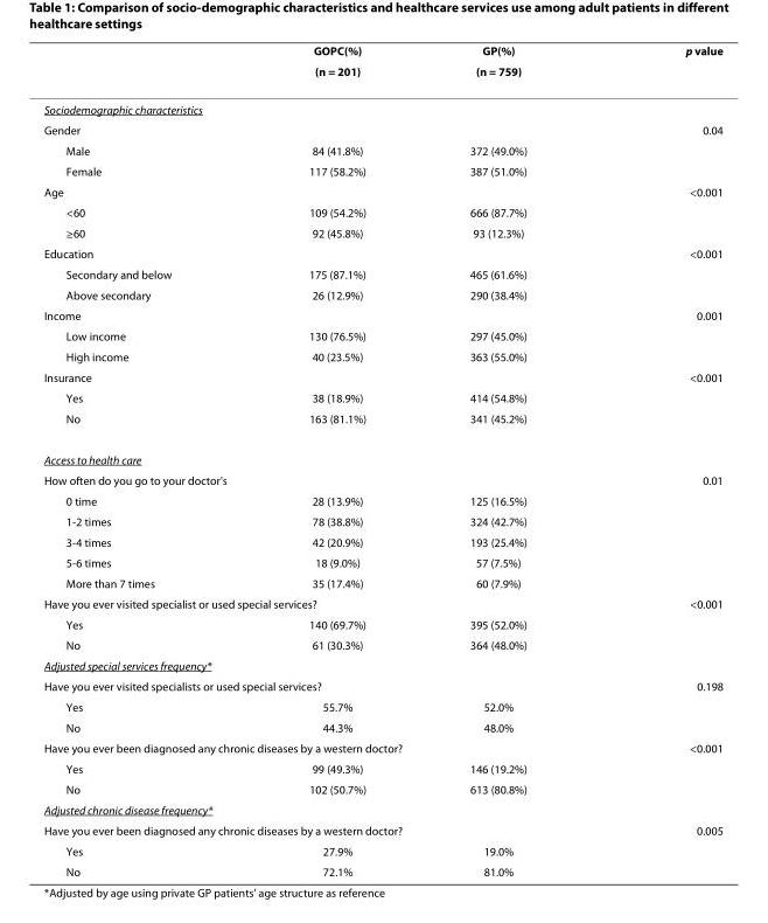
<table><thead><tr><td rowspan="2"></td><td rowspan="2">GOPC(%) (n = 201)</td><td rowspan="2">GP(%) (n = 759)</td><td rowspan="2">p value</td></tr><tr></tr></thead><tbody><tr><td colspan="4">Sociodemographic characteristics</td></tr><tr><td>Gender</td><td></td><td></td><td>0.04</td></tr><tr><td>Male</td><td>84 (41.8%)</td><td>372 (49.0%)</td><td></td></tr><tr><td>Female</td><td>117 (58.2%)</td><td>387 (51.0%)</td><td></td></tr><tr><td>Age</td><td></td><td></td><td>&lt;0.001</td></tr><tr><td>&lt;60</td><td>109 (54.2%)</td><td>666 (87.7%)</td><td></td></tr><tr><td>≥60</td><td>92 (45.8%)</td><td>93 (12.3%)</td><td></td></tr><tr><td>Education</td><td></td><td></td><td>&lt;0.001</td></tr><tr><td>Secondary and below</td><td>175 (87.1%)</td><td>465 (61.6%)</td><td></td></tr><tr><td>Above secondary</td><td>26 (12.9%)</td><td>290 (38.4%)</td><td></td></tr><tr><td>Income</td><td></td><td></td><td>0.001</td></tr><tr><td>Low income</td><td>130 (76.5%)</td><td>297 (45.0%)</td><td></td></tr><tr><td>High income</td><td>40 (23.5%)</td><td>363 (55.0%)</td><td></td></tr><tr><td>Insurance</td><td></td><td></td><td>&lt;0.001</td></tr><tr><td>Yes</td><td>38 (18.9%)</td><td>414 (54.8%)</td><td></td></tr><tr><td>No</td><td>163 (81.1%)</td><td>341 (45.2%)</td><td></td></tr><tr><td colspan="4">Access to health care</td></tr><tr><td colspan="3">How often do you go to your doctor&#x27;s</td><td>0.01</td></tr><tr><td>0 time</td><td>28 (13.9%)</td><td>125 (16.5%)</td><td></td></tr><tr><td>1-2 times</td><td>78 (38.8%)</td><td>324 (42.7%)</td><td></td></tr><tr><td>3-4 times</td><td>42 (20.9%)</td><td>193 (25.4%)</td><td></td></tr><tr><td>5-6 times</td><td>18 (9.0%)</td><td>57 (7.5%)</td><td></td></tr><tr><td>More than 7 times</td><td>35 (17.4%)</td><td>60 (7.9%)</td><td></td></tr><tr><td colspan="3">Have you ever visited specialist or used special services?</td><td>&lt;0.001</td></tr><tr><td>Yes</td><td>140 (69.7%)</td><td>395 (52.0%)</td><td></td></tr><tr><td>No</td><td>61 (30.3%)</td><td>364 (48.0%)</td><td></td></tr><tr><td colspan="4">Adjusted special services frequency*</td></tr><tr><td colspan="3">Have you ever visited specialists or used special services?</td><td>0.198</td></tr><tr><td>Yes</td><td>55.7%</td><td>52.0%</td><td></td></tr><tr><td>No</td><td>44.3%</td><td>48.0%</td><td></td></tr><tr><td colspan="3">Have you ever been diagnosed any chronic diseases by a western doctor?</td><td>&lt;0.001</td></tr><tr><td>Yes</td><td>99 (49.3%)</td><td>146 (19.2%)</td><td></td></tr><tr><td>No</td><td>102 (50.7%)</td><td>613 (80.8%)</td><td></td></tr><tr><td colspan="4">Adjusted chronic disease frequency*</td></tr><tr><td colspan="3">Have you ever been diagnosed any chronic diseases by a western doctor?</td><td>0.005</td></tr><tr><td>Yes</td><td>27.9%</td><td>19.0%</td><td></td></tr><tr><td>No</td><td>72.1%</td><td>81.0%</td><td></td></tr></tbody></table>